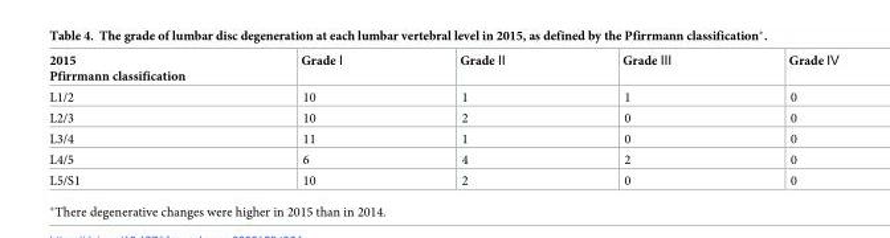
<table><thead><tr><td>2015 Pfirrmann classification</td><td>Grade Ⅰ</td><td>Grade Ⅱ</td><td>Grade Ⅲ</td><td>Grade Ⅳ</td></tr></thead><tbody><tr><td>L1/2</td><td>10</td><td>1</td><td>1</td><td>0</td></tr><tr><td>L2/3</td><td>10</td><td>2</td><td>0</td><td>0</td></tr><tr><td>L3/4</td><td>11</td><td>1</td><td>0</td><td>0</td></tr><tr><td>L4/5</td><td>6</td><td>4</td><td>2</td><td>0</td></tr><tr><td>L5/S1</td><td>10</td><td>2</td><td>0</td><td>0</td></tr></tbody></table>